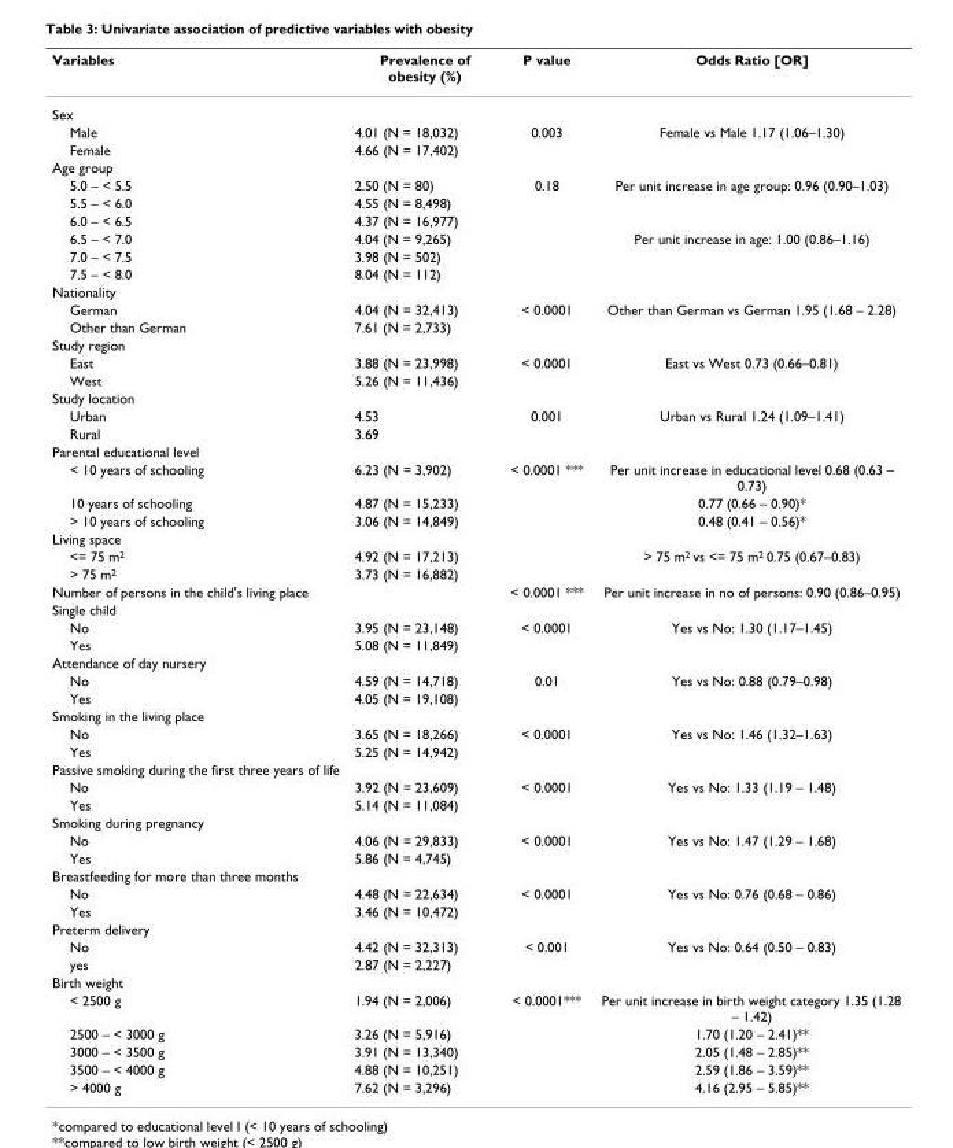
<table><thead><tr><td>Variables</td><td>Prevalence of obesity (%)</td><td>P value</td><td>Odds Ratio [OR]</td></tr></thead><tbody><tr><td colspan="4">Sex</td></tr><tr><td>Male</td><td>4.01 (N = 18,032)</td><td>0.003</td><td>Female vs Male 1.17 (1.06–1.30)</td></tr><tr><td>Female</td><td>4.66 (N = 17,402)</td><td></td><td></td></tr><tr><td colspan="4">Age group</td></tr><tr><td>5.0 – &lt; 5.5</td><td>2.50 (N = 80)</td><td>0.18</td><td>Per unit increase in age group: 0.96 (0.90–1.03)</td></tr><tr><td>5.5 – &lt; 6.0</td><td>4.55 (N = 8,498)</td><td></td><td></td></tr><tr><td>6.0 – &lt; 6.5</td><td>4.37 (N = 16,977)</td><td></td><td></td></tr><tr><td>6.5 – &lt; 7.0</td><td>4.04 (N = 9,265)</td><td></td><td>Per unit increase in age: 1.00 (0.86–1.16)</td></tr><tr><td>7.0 – &lt; 7.5</td><td>3.98 (N = 502)</td><td></td><td></td></tr><tr><td>7.5 – &lt; 8.0</td><td>8.04 (N = 112)</td><td></td><td></td></tr><tr><td colspan="4">Nationality</td></tr><tr><td>German</td><td>4.04 (N = 32,413)</td><td>&lt; 0.0001</td><td>Other than German vs German 1.95 (1.68 – 2.28)</td></tr><tr><td>Other than German</td><td>7.61 (N = 2,733)</td><td></td><td></td></tr><tr><td colspan="4">Study region</td></tr><tr><td>East</td><td>3.88 (N = 23,998)</td><td>&lt; 0.0001</td><td>East vs West 0.73 (0.66–0.81)</td></tr><tr><td>West</td><td>5.26 (N = 11,436)</td><td></td><td></td></tr><tr><td colspan="4">Study location</td></tr><tr><td>Urban</td><td>4.53</td><td>0.001</td><td>Urban vs Rural 1.24 (1.09–1.41)</td></tr><tr><td>Rural</td><td>3.69</td><td></td><td></td></tr><tr><td colspan="4">Parental educational level</td></tr><tr><td>&lt; 10 years of schooling</td><td>6.23 (N = 3,902)</td><td>&lt; 0.0001 ***</td><td>Per unit increase in educational level 0.68 (0.63 – 0.73)</td></tr><tr><td>10 years of schooling</td><td>4.87 (N = 15,233)</td><td></td><td>0.77 (0.66 – 0.90)*</td></tr><tr><td>&gt; 10 years of schooling</td><td>3.06 (N = 14,849)</td><td></td><td>0.48 (0.41 – 0.56)*</td></tr><tr><td colspan="4">Living space</td></tr><tr><td>&lt;= 75 m<sup>2</sup></td><td>4.92 (N = 17,213)</td><td></td><td>&gt; 75 m<sup>2</sup> vs &lt;= 75 m<sup>2</sup> 0.75 (0.67–0.83)</td></tr><tr><td>&gt; 75 m<sup>2</sup></td><td>3.73 (N = 16,882)</td><td></td><td></td></tr><tr><td>Number of persons in the child&#x27;s living place</td><td></td><td>&lt; 0.0001 ***</td><td>Per unit increase in no of persons: 0.90 (0.86–0.95)</td></tr><tr><td colspan="4">Single child</td></tr><tr><td>No</td><td>3.95 (N = 23,148)</td><td>&lt; 0.0001</td><td>Yes vs No: 1.30 (1.17–1.45)</td></tr><tr><td>Yes</td><td>5.08 (N = 11,849)</td><td></td><td></td></tr><tr><td colspan="4">Attendance of day nursery</td></tr><tr><td>No</td><td>4.59 (N = 14,718)</td><td>0.01</td><td>Yes vs No: 0.88 (0.79–0.98)</td></tr><tr><td>Yes</td><td>4.05 (N = 19,108)</td><td></td><td></td></tr><tr><td colspan="4">Smoking in the living place</td></tr><tr><td>No</td><td>3.65 (N = 18,266)</td><td>&lt; 0.0001</td><td>Yes vs No: 1.46 (1.32–1.63)</td></tr><tr><td>Yes</td><td>5.25 (N = 14,942)</td><td></td><td></td></tr><tr><td colspan="4">Passive smoking during the first three years of life</td></tr><tr><td>No</td><td>3.92 (N = 23,609)</td><td>&lt; 0.0001</td><td>Yes vs No: 1.33 (1.19 – 1.48)</td></tr><tr><td>Yes</td><td>5.14 (N = 11,084)</td><td></td><td></td></tr><tr><td colspan="4">Smoking during pregnancy</td></tr><tr><td>No</td><td>4.06 (N = 29,833)</td><td>&lt; 0.0001</td><td>Yes vs No: 1.47 (1.29 – 1.68)</td></tr><tr><td>Yes</td><td>5.86 (N = 4,745)</td><td></td><td></td></tr><tr><td colspan="4">Breastfeeding for more than three months</td></tr><tr><td>No</td><td>4.48 (N = 22,634)</td><td>&lt; 0.0001</td><td>Yes vs No: 0.76 (0.68 – 0.86)</td></tr><tr><td>Yes</td><td>3.46 (N = 10,472)</td><td></td><td></td></tr><tr><td colspan="4">Preterm delivery</td></tr><tr><td>No</td><td>4.42 (N = 32,313)</td><td>&lt; 0.001</td><td>Yes vs No: 0.64 (0.50 – 0.83)</td></tr><tr><td>yes</td><td>2.87 (N = 2,227)</td><td></td><td></td></tr><tr><td colspan="4">Birth weight</td></tr><tr><td>&lt; 2500 g</td><td>1.94 (N = 2,006)</td><td>&lt; 0.0001***</td><td>Per unit increase in birth weight category 1.35 (1.28 – 1.42)</td></tr><tr><td>2500 – &lt; 3000 g</td><td>3.26 (N = 5,916)</td><td></td><td>1.70 (1.20 – 2.41)**</td></tr><tr><td>3000 – &lt; 3500 g</td><td>3.91 (N = 13,340)</td><td></td><td>2.05 (1.48 – 2.85)**</td></tr><tr><td>3500 – &lt; 4000 g</td><td>4.88 (N = 10,251)</td><td></td><td>2.59 (1.86 – 3.59)**</td></tr><tr><td>&gt; 4000 g</td><td>7.62 (N = 3,296)</td><td></td><td>4.16 (2.95 – 5.85)**</td></tr></tbody></table>